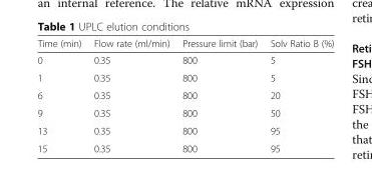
<table><thead><tr><td>Time (min)</td><td>Flow rate (ml/min)</td><td>Pressure limit (bar)</td><td>Solv Ratio B (%)</td></tr></thead><tbody><tr><td>0</td><td>0.35</td><td>800</td><td>5</td></tr><tr><td>1</td><td>0.35</td><td>800</td><td>5</td></tr><tr><td>6</td><td>0.35</td><td>800</td><td>20</td></tr><tr><td>9</td><td>0.35</td><td>800</td><td>50</td></tr><tr><td>13</td><td>0.35</td><td>800</td><td>95</td></tr><tr><td>15</td><td>0.35</td><td>800</td><td>95</td></tr></tbody></table>